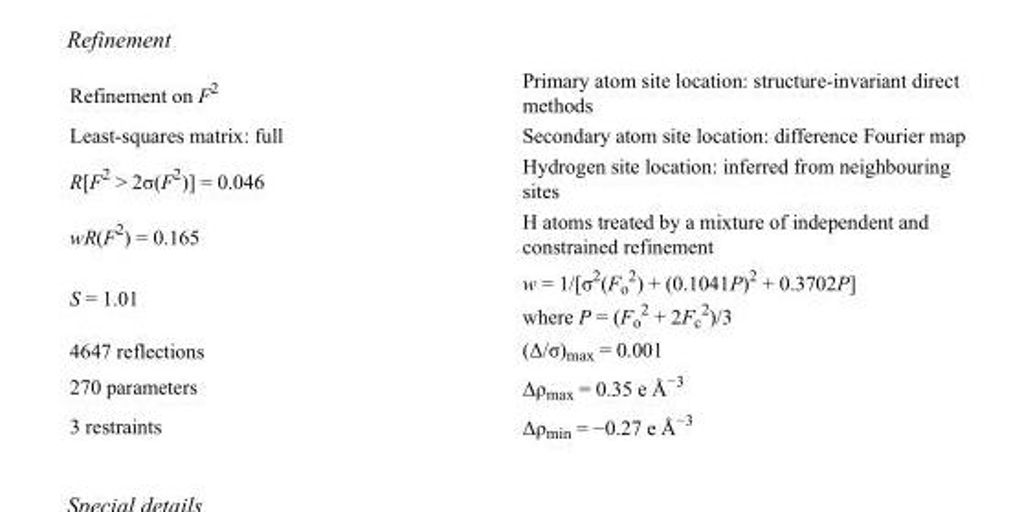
<table><tbody><tr><td>Refinement on F<sup>2</sup></td><td>Primary atom site location: structure-invariant direct methods</td></tr><tr><td>Least-squares matrix: full</td><td>Secondary atom site location: difference Fourier map</td></tr><tr><td>R[F<sup>2</sup> &gt; 2σ(F<sup>2</sup>)] = 0.046</td><td>Hydrogen site location: inferred from neighbouring sites</td></tr><tr><td>wR(F<sup>2</sup>) = 0.165</td><td>H atoms treated by a mixture of independent and constrained refinement</td></tr><tr><td>S = 1.01</td><td>w = 1/[σ<sup>2</sup>(F<sub>o</sub> <sup>2</sup>) + (0.1041P)<sup>2</sup> + 0.3702P] where P = (F<sub>o</sub> <sup>2</sup> + 2F<sub>c</sub> <sup>2</sup>)/3</td></tr><tr><td>4647 reflections</td><td>(Δ/σ)<sub>max</sub> = 0.001</td></tr><tr><td>270 parameters</td><td>Δρ<sub>max</sub> = 0.35 e Å<sup>−3</sup></td></tr><tr><td>3 restraints</td><td>Δρ<sub>min</sub> = −0.27 e Å<sup>−3</sup></td></tr></tbody></table>